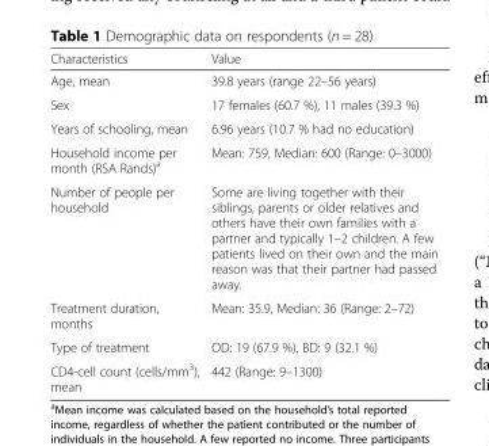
<table><thead><tr><td>Characteristics</td><td>Value</td></tr></thead><tbody><tr><td>Age, mean</td><td>39.8 years (range 22–56 years)</td></tr><tr><td>Sex</td><td>17 females (60.7 %), 11 males (39.3 %)</td></tr><tr><td>Years of schooling, mean</td><td>6.96 years (10.7 % had no education)</td></tr><tr><td>Household income per month (RSA Rands)<sup>a</sup></td><td>Mean: 759, Median: 600 (Range: 0–3000)</td></tr><tr><td>Number of people per household</td><td>Some are living together with their siblings, parents or older relatives and others have their own families with a partner and typically 1–2 children. A few patients lived on their own and the main reason was that their partner had passed away.</td></tr><tr><td>Treatment duration, months</td><td>Mean: 35.9, Median: 36 (Range: 2–72)</td></tr><tr><td>Type of treatment</td><td>OD: 19 (67.9 %), BD: 9 (32.1 %)</td></tr><tr><td>CD4-cell count (cells/mm<sup>3</sup>), mean</td><td>442 (Range: 9–1300)</td></tr></tbody></table>